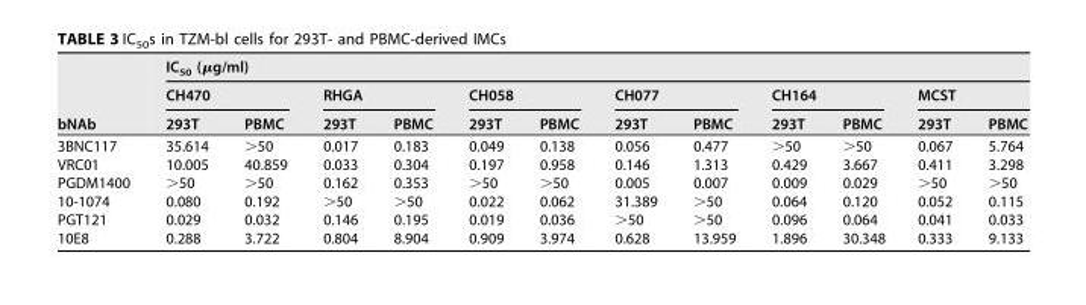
<table><thead><tr><td rowspan="3">bNAb</td><td colspan="12">IC<sub>50</sub> (μg/ml)</td></tr><tr><td colspan="2">CH470</td><td colspan="2">RHGA</td><td colspan="2">CH058</td><td colspan="2">CH077</td><td colspan="2">CH164</td><td colspan="2">MCST</td></tr><tr><td>293T</td><td>PBMC</td><td>293T</td><td>PBMC</td><td>293T</td><td>PBMC</td><td>293T</td><td>PBMC</td><td>293T</td><td>PBMC</td><td>293T</td><td>PBMC</td></tr></thead><tbody><tr><td>3BNC117</td><td>35.614</td><td>&gt;50</td><td>0.017</td><td>0.183</td><td>0.049</td><td>0.138</td><td>0.056</td><td>0.477</td><td>&gt;50</td><td>&gt;50</td><td>0.067</td><td>5.764</td></tr><tr><td>VRC01</td><td>10.005</td><td>40.859</td><td>0.033</td><td>0.304</td><td>0.197</td><td>0.958</td><td>0.146</td><td>1.313</td><td>0.429</td><td>3.667</td><td>0.411</td><td>3.298</td></tr><tr><td>PGDM1400</td><td>&gt;50</td><td>&gt;50</td><td>0.162</td><td>0.353</td><td>&gt;50</td><td>&gt;50</td><td>0.005</td><td>0.007</td><td>0.009</td><td>0.029</td><td>&gt;50</td><td>&gt;50</td></tr><tr><td>10-1074</td><td>0.080</td><td>0.192</td><td>&gt;50</td><td>&gt;50</td><td>0.022</td><td>0.062</td><td>31.389</td><td>&gt;50</td><td>0.064</td><td>0.120</td><td>0.052</td><td>0.115</td></tr><tr><td>PGT121</td><td>0.029</td><td>0.032</td><td>0.146</td><td>0.195</td><td>0.019</td><td>0.036</td><td>&gt;50</td><td>&gt;50</td><td>0.096</td><td>0.064</td><td>0.041</td><td>0.033</td></tr><tr><td>10E8</td><td>0.288</td><td>3.722</td><td>0.804</td><td>8.904</td><td>0.909</td><td>3.974</td><td>0.628</td><td>13.959</td><td>1.896</td><td>30.348</td><td>0.333</td><td>9.133</td></tr></tbody></table>